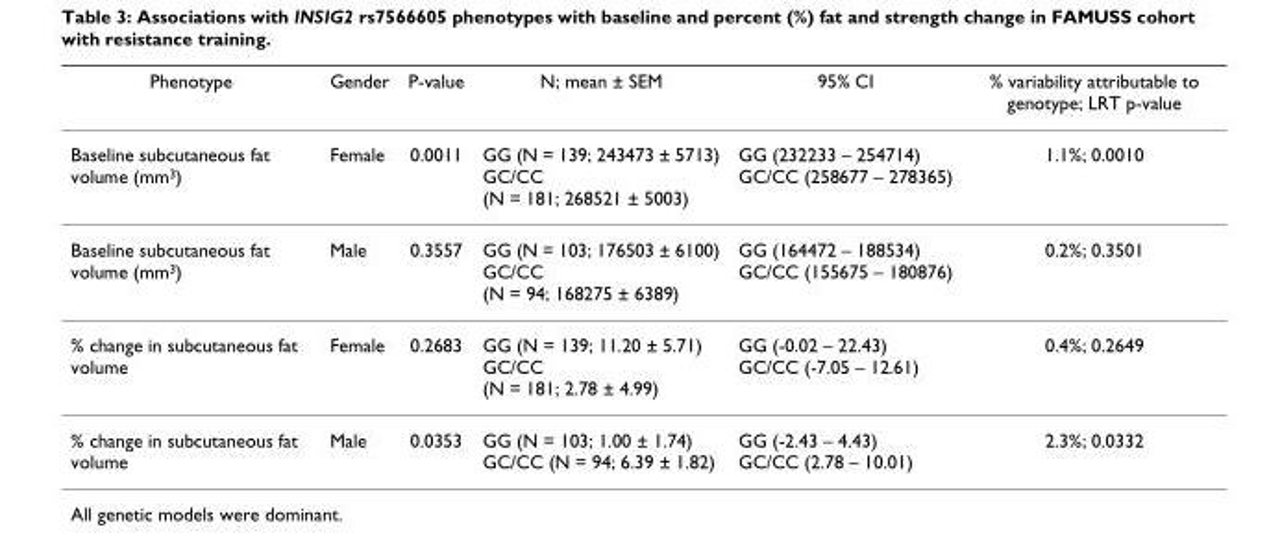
<table><thead><tr><td>Phenotype</td><td>Gender</td><td>P-value</td><td>N; mean ± SEM</td><td>95% CI</td><td>% variability attributable to genotype; LRT p-value</td></tr></thead><tbody><tr><td>Baseline subcutaneous fat volume (mm<sup>3</sup>)</td><td>Female</td><td>0.0011</td><td>GG (N = 139; 243473 ± 5713) GC/CC (N = 181; 268521 ± 5003)</td><td>GG (232233 – 254714) GC/CC (258677 – 278365)</td><td>1.1%; 0.0010</td></tr><tr><td>Baseline subcutaneous fat volume (mm<sup>3</sup>)</td><td>Male</td><td>0.3557</td><td>GG (N = 103; 176503 ± 6100) GC/CC (N = 94; 168275 ± 6389)</td><td>GG (164472 – 188534) GC/CC (155675 – 180876)</td><td>0.2%; 0.3501</td></tr><tr><td>% change in subcutaneous fat volume</td><td>Female</td><td>0.2683</td><td>GG (N = 139; 11.20 ± 5.71) GC/CC (N = 181; 2.78 ± 4.99)</td><td>GG (-0.02 – 22.43) GC/CC (-7.05 – 12.61)</td><td>0.4%; 0.2649</td></tr><tr><td>% change in subcutaneous fat volume</td><td>Male</td><td>0.0353</td><td>GG (N = 103; 1.00 ± 1.74) GC/CC (N = 94; 6.39 ± 1.82)</td><td>GG (-2.43 – 4.43) GC/CC (2.78 – 10.01)</td><td>2.3%; 0.0332</td></tr></tbody></table>